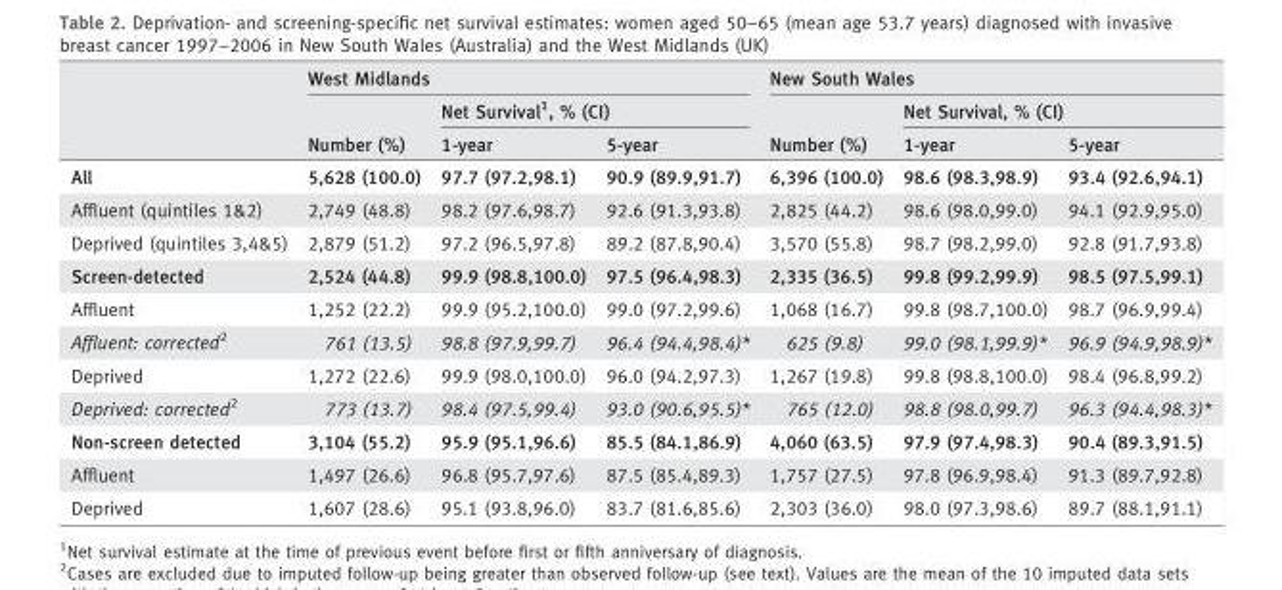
<table><thead><tr><td rowspan="3"></td><td colspan="3">West Midlands</td><td colspan="3">New South Wales</td></tr><tr><td rowspan="2">Number (%)</td><td colspan="2">Net Survival1, % (CI)</td><td rowspan="2">Number (%)</td><td colspan="2">Net Survival, % (CI)</td></tr><tr><td>1-year</td><td>5-year</td><td>1-year</td><td>5-year</td></tr></thead><tbody><tr><td>All</td><td>5,628 (100.0)</td><td>97.7 (97.2,98.1)</td><td>90.9 (89.9,91.7)</td><td>6,396 (100.0)</td><td>98.6 (98.3,98.9)</td><td>93.4 (92.6,94.1)</td></tr><tr><td>Affluent (quintiles 1&amp;2)</td><td>2,749 (48.8)</td><td>98.2 (97.6,98.7)</td><td>92.6 (91.3,93.8)</td><td>2,825 (44.2)</td><td>98.6 (98.0,99.0)</td><td>94.1 (92.9,95.0)</td></tr><tr><td>Deprived (quintiles 3,4&amp;5)</td><td>2,879 (51.2)</td><td>97.2 (96.5,97.8)</td><td>89.2 (87.8,90.4)</td><td>3,570 (55.8)</td><td>98.7 (98.2,99.0)</td><td>92.8 (91.7,93.8)</td></tr><tr><td>Screen-detected</td><td>2,524 (44.8)</td><td>99.9 (98.8,100.0)</td><td>97.5 (96.4,98.3)</td><td>2,335 (36.5)</td><td>99.8 (99.2,99.9)</td><td>98.5 (97.5,99.1)</td></tr><tr><td>Affluent</td><td>1,252 (22.2)</td><td>99.9 (95.2,100.0)</td><td>99.0 (97.2,99.6)</td><td>1,068 (16.7)</td><td>99.8 (98.7,100.0)</td><td>98.7 (96.9,99.4)</td></tr><tr><td>Affluent: corrected2</td><td>761 (13.5)</td><td>98.8 (97.9,99.7)</td><td>96.4 (94.4,98.4)*</td><td>625 (9.8)</td><td>99.0 (98.1,99.9)*</td><td>96.9 (94.9,98.9)*</td></tr><tr><td>Deprived</td><td>1,272 (22.6)</td><td>99.9 (98.0,100.0)</td><td>96.0 (94.2,97.3)</td><td>1,267 (19.8)</td><td>99.8 (98.8,100.0)</td><td>98.4 (96.8,99.2)</td></tr><tr><td>Deprived: corrected2</td><td>773 (13.7)</td><td>98.4 (97.5,99.4)</td><td>93.0 (90.6,95.5)*</td><td>765 (12.0)</td><td>98.8 (98.0,99.7)</td><td>96.3 (94.4,98.3)*</td></tr><tr><td>Non-screen detected</td><td>3,104 (55.2)</td><td>95.9 (95.1,96.6)</td><td>85.5 (84.1,86.9)</td><td>4,060 (63.5)</td><td>97.9 (97.4,98.3)</td><td>90.4 (89.3,91.5)</td></tr><tr><td>Affluent</td><td>1,497 (26.6)</td><td>96.8 (95.7,97.6)</td><td>87.5 (85.4,89.3)</td><td>1,757 (27.5)</td><td>97.8 (96.9,98.4)</td><td>91.3 (89.7,92.8)</td></tr><tr><td>Deprived</td><td>1,607 (28.6)</td><td>95.1 (93.8,96.0)</td><td>83.7 (81.6,85.6)</td><td>2,303 (36.0)</td><td>98.0 (97.3,98.6)</td><td>89.7 (88.1,91.1)</td></tr></tbody></table>